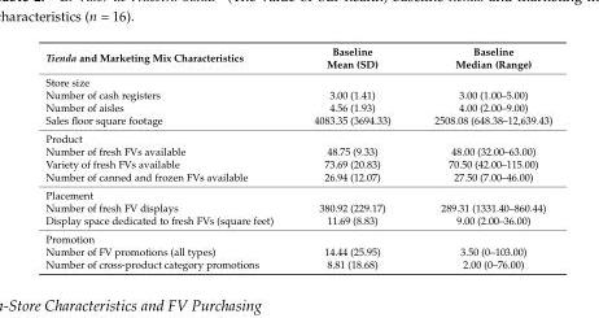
<table><thead><tr><td>Tienda and Marketing Mix Characteristics</td><td>Baseline Mean (SD)</td><td>Baseline Median (Range)</td></tr></thead><tbody><tr><td colspan="3">Store size</td></tr><tr><td>Number of cash registers</td><td>3.00 (1.41)</td><td>3.00 (1.00–5.00)</td></tr><tr><td>Number of aisles</td><td>4.56 (1.93)</td><td>4.00 (2.00–9.00)</td></tr><tr><td>Sales floor square footage</td><td>4083.35 (3694.33)</td><td>2508.08 (648.38–12,639.43)</td></tr><tr><td colspan="3">Product</td></tr><tr><td>Number of fresh FVs available</td><td>48.75 (9.33)</td><td>48.00 (32.00–63.00)</td></tr><tr><td>Variety of fresh FVs available</td><td>73.69 (20.83)</td><td>70.50 (42.00–115.00)</td></tr><tr><td>Number of canned and frozen FVs available</td><td>26.94 (12.07)</td><td>27.50 (7.00–46.00)</td></tr><tr><td colspan="3">Placement</td></tr><tr><td>Number of fresh FV displays</td><td>380.92 (229.17)</td><td>289.31 (1331.40–860.44)</td></tr><tr><td>Display space dedicated to fresh FVs (square feet)</td><td>11.69 (8.83)</td><td>9.00 (2.00–36.00)</td></tr><tr><td colspan="3">Promotion</td></tr><tr><td>Number of FV promotions (all types)</td><td>14.44 (25.95)</td><td>3.50 (0–103.00)</td></tr><tr><td>Number of cross-product category promotions</td><td>8.81 (18.68)</td><td>2.00 (0–76.00)</td></tr></tbody></table>